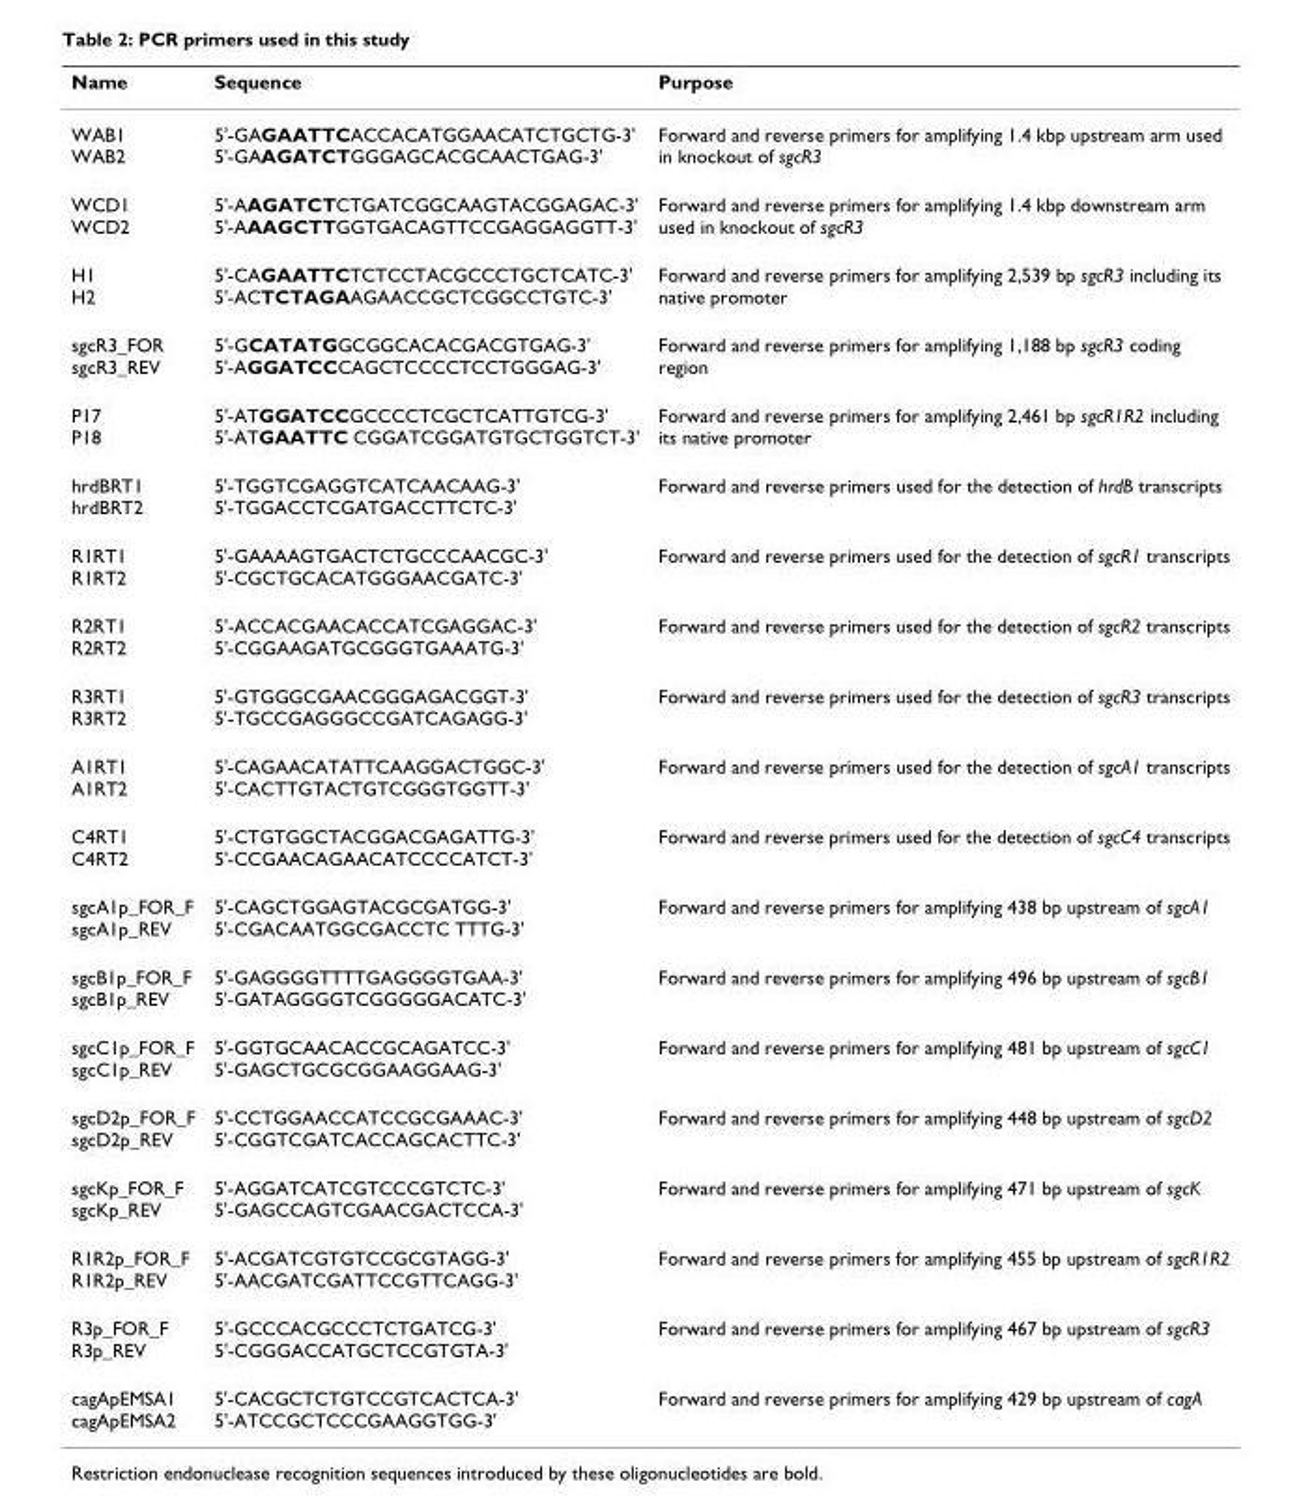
<table><thead><tr><td>Name</td><td>Sequence</td><td>Purpose</td></tr></thead><tbody><tr><td>WAB1 WAB2</td><td>5&#x27;-GAGAATTCACCACATGGAACATCTGCTG-3&#x27; 5&#x27;-GAAGATCTGGGAGCACGCAACTGAG-3&#x27;</td><td>Forward and reverse primers for amplifying 1.4 kbp upstream arm used in knockout of sgcR3</td></tr><tr><td>WCD1 WCD2</td><td>5&#x27;-AAGATCTCTGATCGGCAAGTACGGAGAC-3&#x27; 5&#x27;-AAAGCTTGGTGACAGTTCCGAGGAGGTT-3&#x27;</td><td>Forward and reverse primers for amplifying 1.4 kbp downstream arm used in knockout of sgcR3</td></tr><tr><td>H1 H2</td><td>5&#x27;-CAGAATTCTCTCCTACGCCCTGCTCATC-3&#x27; 5&#x27;-ACTCTAGAAGAACCGCTCGGCCTGTC-3&#x27;</td><td>Forward and reverse primers for amplifying 2,539 bp sgcR3 including its native promoter</td></tr><tr><td>sgcR3_FOR sgcR3_REV</td><td>5&#x27;-GCATATGGCGGCACACGACGTGAG-3&#x27; 5&#x27;-AGGATCCCAGCTCCCCTCCTGGGAG-3&#x27;</td><td>Forward and reverse primers for amplifying 1,188 bp sgcR3 coding region</td></tr><tr><td>P17 P18</td><td>5&#x27;-ATGGATCCGCCCCTCGCTCATTGTCG-3&#x27; 5&#x27;-ATGAATTC CGGATCGGATGTGCTGGTCT-3&#x27;</td><td>Forward and reverse primers for amplifying 2,461 bp sgcR1R2 including its native promoter</td></tr><tr><td>hrdBRT1 hrdBRT2</td><td>5&#x27;-TGGTCGAGGTCATCAACAAG-3&#x27; 5&#x27;-TGGACCTCGATGACCTTCTC-3&#x27;</td><td>Forward and reverse primers used for the detection of hrdB transcripts</td></tr><tr><td>R1RT1 R1RT2</td><td>5&#x27;-GAAAAGTGACTCTGCCCAACGC-3&#x27; 5&#x27;-CGCTGCACATGGGAACGATC-3&#x27;</td><td>Forward and reverse primers used for the detection of sgcR1 transcripts</td></tr><tr><td>R2RT1 R2RT2</td><td>5&#x27;-ACCACGAACACCATCGAGGAC-3&#x27; 5&#x27;-CGGAAGATGCGGGTGAAATG-3&#x27;</td><td>Forward and reverse primers used for the detection of sgcR2 transcripts</td></tr><tr><td>R3RT1 R3RT2</td><td>5&#x27;-GTGGGCGAACGGGAGACGGT-3&#x27; 5&#x27;-TGCCGAGGGCCGATCAGAGG-3&#x27;</td><td>Forward and reverse primers used for the detection of sgcR3 transcripts</td></tr><tr><td>A1RT1 A1RT2</td><td>5&#x27;-CAGAACATATTCAAGGACTGGC-3&#x27; 5&#x27;-CACTTGTACTGTCGGGTGGTT-3&#x27;</td><td>Forward and reverse primers used for the detection of sgcA1 transcripts</td></tr><tr><td>C4RT1 C4RT2</td><td>5&#x27;-CTGTGGCTACGGACGAGATTG-3&#x27; 5&#x27;-CCGAACAGAACATCCCCATCT-3&#x27;</td><td>Forward and reverse primers used for the detection of sgcC4 transcripts</td></tr><tr><td>sgcA1p_FOR_F sgcA1p_REV</td><td>5&#x27;-CAGCTGGAGTACGCGATGG-3&#x27; 5&#x27;-CGACAATGGCGACCTC TTTG-3&#x27;</td><td>Forward and reverse primers for amplifying 438 bp upstream of sgcA1</td></tr><tr><td>sgcB1p_FOR_F sgcB1p_REV</td><td>5&#x27;-GAGGGGTTTTGAGGGGTGAA-3&#x27; 5&#x27;-GATAGGGGTCGGGGGACATC-3&#x27;</td><td>Forward and reverse primers for amplifying 496 bp upstream of sgcB1</td></tr><tr><td>sgcC1p_FOR_F sgcC1p_REV</td><td>5&#x27;-GGTGCAACACCGCAGATCC-3&#x27; 5&#x27;-GAGCTGCGCGGAAGGAAG-3&#x27;</td><td>Forward and reverse primers for amplifying 481 bp upstream of sgcC1</td></tr><tr><td>sgcD2p_FOR_F sgcD2p_REV</td><td>5&#x27;-CCTGGAACCATCCGCGAAAC-3&#x27; 5&#x27;-CGGTCGATCACCAGCACTTC-3&#x27;</td><td>Forward and reverse primers for amplifying 448 bp upstream of sgcD2</td></tr><tr><td>sgcKp_FOR_F sgcKp_REV</td><td>5&#x27;-AGGATCATCGTCCCGTCTC-3&#x27; 5&#x27;-GAGCCAGTCGAACGACTCCA-3&#x27;</td><td>Forward and reverse primers for amplifying 471 bp upstream of sgcK</td></tr><tr><td>R1R2p_FOR_F R1R2p_REV</td><td>5&#x27;-ACGATCGTGTCCGCGTAGG-3&#x27; 5&#x27;-AACGATCGATTCCGTTCAGG-3&#x27;</td><td>Forward and reverse primers for amplifying 455 bp upstream of sgcR1R2</td></tr><tr><td>R3p_FOR_F R3p_REV</td><td>5&#x27;-GCCCACGCCCTCTGATCG-3&#x27; 5&#x27;-CGGGACCATGCTCCGTGTA-3&#x27;</td><td>Forward and reverse primers for amplifying 467 bp upstream of sgcR3</td></tr><tr><td>cagApEMSA1 cagApEMSA2</td><td>5&#x27;-CACGCTCTGTCCGTCACTCA-3&#x27; 5&#x27;-ATCCGCTCCCGAAGGTGG-3&#x27;</td><td>Forward and reverse primers for amplifying 429 bp upstream of cagA</td></tr></tbody></table>